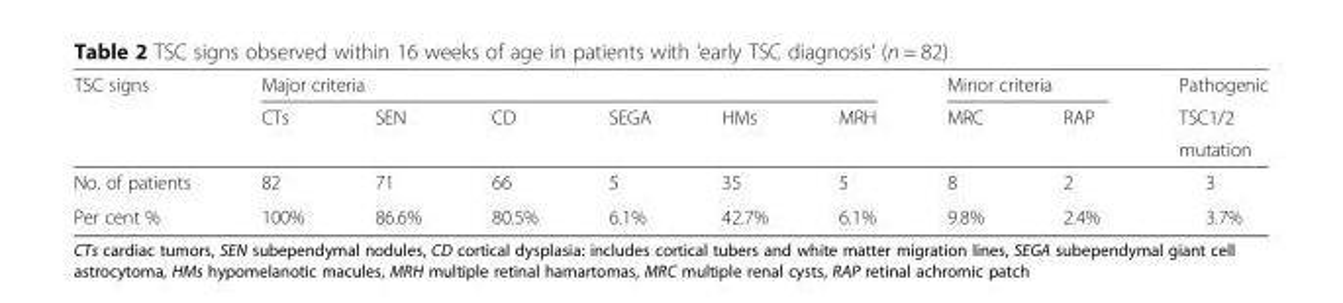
<table><thead><tr><td rowspan="3">TSC signs</td><td colspan="6">Major criteria</td><td colspan="2">Minor criteria</td><td rowspan="3">Pathogenic TSC1/2 mutation</td></tr><tr><td rowspan="2">CTs</td><td rowspan="2">SEN</td><td rowspan="2">CD</td><td rowspan="2">SEGA</td><td rowspan="2">HMs</td><td rowspan="2">MRH</td><td rowspan="2">MRC</td><td rowspan="2">RAP</td></tr><tr></tr></thead><tbody><tr><td>No. of patients</td><td>82</td><td>71</td><td>66</td><td>5</td><td>35</td><td>5</td><td>8</td><td>2</td><td>3</td></tr><tr><td>Per cent %</td><td>100%</td><td>86.6%</td><td>80.5%</td><td>6.1%</td><td>42.7%</td><td>6.1%</td><td>9.8%</td><td>2.4%</td><td>3.7%</td></tr></tbody></table>